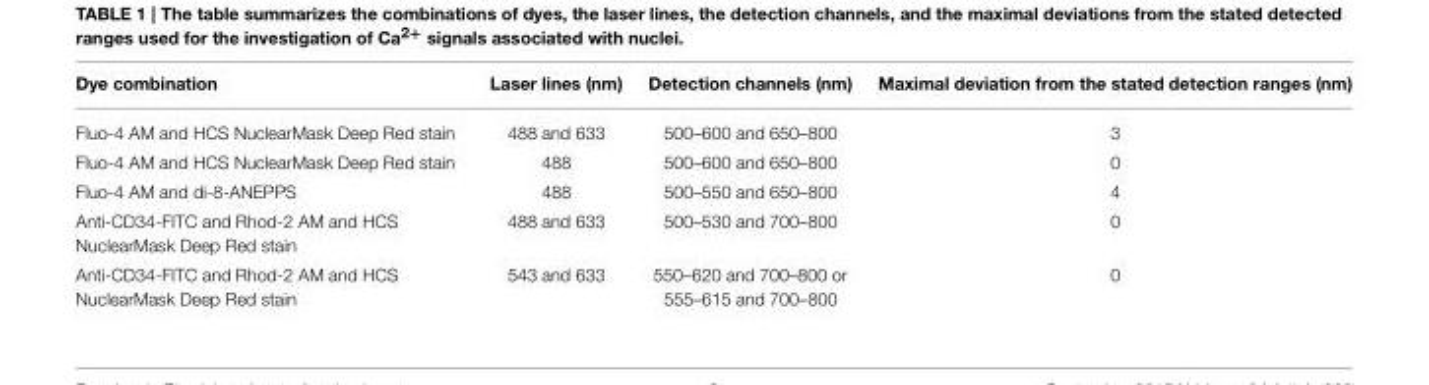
<table><thead><tr><td>Dye combination</td><td>Laser lines (nm)</td><td>Detection channels (nm)</td><td>Maximal deviation from the stated detection ranges (nm)</td></tr></thead><tbody><tr><td>Fluo-4 AM and HCS NuclearMask Deep Red stain</td><td>488 and 633</td><td>500–600 and 650–800</td><td>3</td></tr><tr><td>Fluo-4 AM and HCS NuclearMask Deep Red stain</td><td>488</td><td>500–600 and 650–800</td><td>0</td></tr><tr><td>Fluo-4 AM and di-8-ANEPPS</td><td>488</td><td>500–550 and 650–800</td><td>4</td></tr><tr><td>Anti-CD34-FITC and Rhod-2 AM and HCS NuclearMask Deep Red stain</td><td>488 and 633</td><td>500–530 and 700–800</td><td>0</td></tr><tr><td>Anti-CD34-FITC and Rhod-2 AM and HCS NuclearMask Deep Red stain</td><td>543 and 633</td><td>550–620 and 700–800 or 555–615 and 700–800</td><td>0</td></tr></tbody></table>